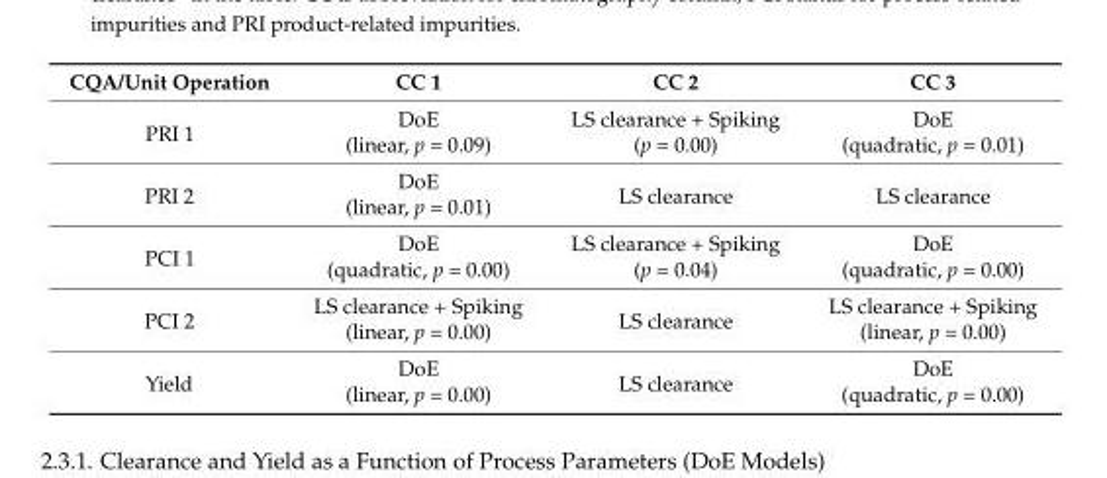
<table><thead><tr><td>CQA/Unit Operation</td><td>CC 1</td><td>CC 2</td><td>CC 3</td></tr></thead><tbody><tr><td rowspan="2">PRI 1</td><td>DoE</td><td>LS clearance + Spiking</td><td>DoE</td></tr><tr><td>(linear, p = 0.09)</td><td>(p = 0.00)</td><td>(quadratic, p = 0.01)</td></tr><tr><td rowspan="2">PRI 2</td><td>DoE</td><td rowspan="2">LS clearance</td><td rowspan="2">LS clearance</td></tr><tr><td>(linear, p = 0.01)</td></tr><tr><td rowspan="2">PCI 1</td><td>DoE</td><td>LS clearance + Spiking</td><td>DoE</td></tr><tr><td>(quadratic, p = 0.00)</td><td>(p = 0.04)</td><td>(quadratic, p = 0.00)</td></tr><tr><td rowspan="2">PCI 2</td><td>LS clearance + Spiking</td><td rowspan="2">LS clearance</td><td>LS clearance + Spiking</td></tr><tr><td>(linear, p = 0.00)</td><td>(linear, p = 0.00)</td></tr><tr><td rowspan="2">Yield</td><td>DoE</td><td rowspan="2">LS clearance</td><td>DoE</td></tr><tr><td>(linear, p = 0.00)</td><td>(quadratic, p = 0.00)</td></tr></tbody></table>